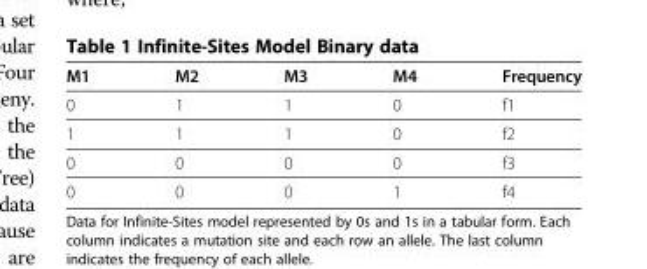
<table><thead><tr><td>M1</td><td>M2</td><td>M3</td><td>M4</td><td>Frequency</td></tr></thead><tbody><tr><td>0</td><td>1</td><td>1</td><td>0</td><td>f1</td></tr><tr><td>1</td><td>1</td><td>1</td><td>0</td><td>f2</td></tr><tr><td>0</td><td>0</td><td>0</td><td>0</td><td>f3</td></tr><tr><td>0</td><td>0</td><td>0</td><td>1</td><td>f4</td></tr></tbody></table>